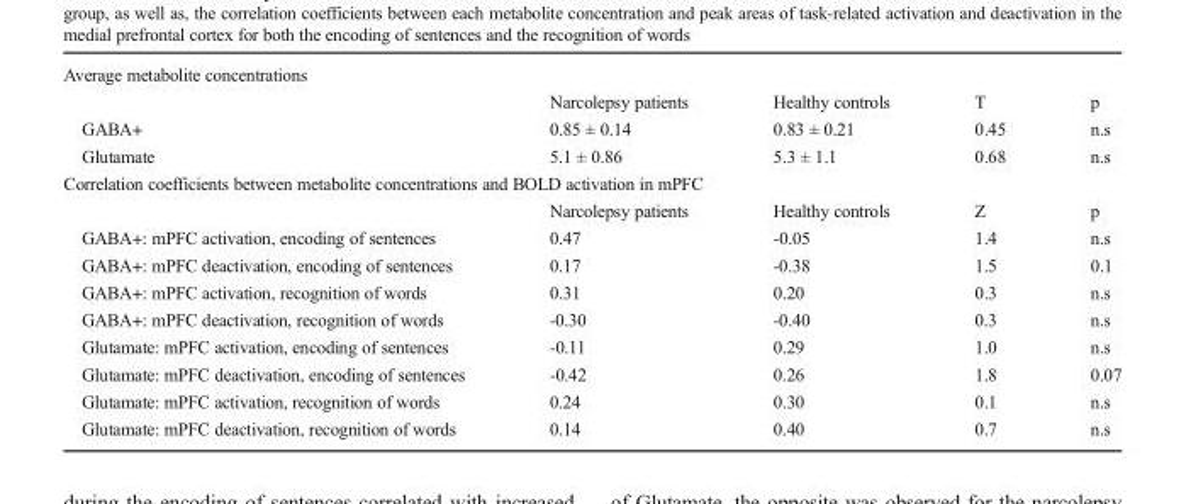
<table><tbody><tr><td colspan="5">Average metabolite concentrations</td></tr><tr><td></td><td>Narcolepsy patients</td><td>Healthy controls</td><td>T</td><td>p</td></tr><tr><td>GABA+</td><td>0.85 ± 0.14</td><td>0.83 ± 0.21</td><td>0.45</td><td>n.s</td></tr><tr><td>Glutamate</td><td>5.1 ± 0.86</td><td>5.3 ± 1.1</td><td>0.68</td><td>n.s</td></tr><tr><td colspan="5">Correlation coefficients between metabolite concentrations and BOLD activation in mPFC</td></tr><tr><td></td><td>Narcolepsy patients</td><td>Healthy controls</td><td>Z</td><td>p</td></tr><tr><td>GABA+: mPFC activation, encoding of sentences</td><td>0.47</td><td>-0.05</td><td>1.4</td><td>n.s</td></tr><tr><td>GABA+: mPFC deactivation, encoding of sentences</td><td>0.17</td><td>-0.38</td><td>1.5</td><td>0.1</td></tr><tr><td>GABA+: mPFC activation, recognition of words</td><td>0.31</td><td>0.20</td><td>0.3</td><td>n.s</td></tr><tr><td>GABA+: mPFC deactivation, recognition of words</td><td>-0.30</td><td>-0.40</td><td>0.3</td><td>n.s</td></tr><tr><td>Glutamate: mPFC activation, encoding of sentences</td><td>-0.11</td><td>0.29</td><td>1.0</td><td>n.s</td></tr><tr><td>Glutamate: mPFC deactivation, encoding of sentences</td><td>-0.42</td><td>0.26</td><td>1.8</td><td>0.07</td></tr><tr><td>Glutamate: mPFC activation, recognition of words</td><td>0.24</td><td>0.30</td><td>0.1</td><td>n.s</td></tr><tr><td>Glutamate: mPFC deactivation, recognition of words</td><td>0.14</td><td>0.40</td><td>0.7</td><td>n.s</td></tr></tbody></table>